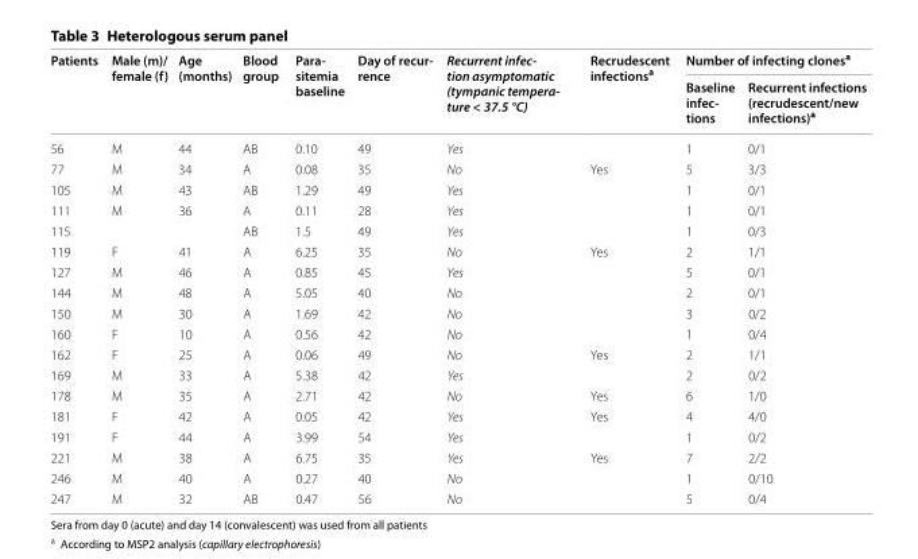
<table><thead><tr><td rowspan="2">Patients</td><td rowspan="2">Male (m)/ female (f)</td><td rowspan="2">Age (months)</td><td rowspan="2">Blood group</td><td rowspan="2">Para- sitemia baseline</td><td rowspan="2">Day of recur- rence</td><td rowspan="2">Recurrent infec- tion asymptomatic (tympanic tempera- ture &lt; 37.5 °C)</td><td rowspan="2">Recrudescent infections<sup>a</sup></td><td colspan="2">Number of infecting clones<sup>a</sup></td></tr><tr><td>Baseline infec- tions</td><td>Recurrent infections (recrudescent/new infections)<sup>a</sup></td></tr></thead><tbody><tr><td>56</td><td>M</td><td>44</td><td>AB</td><td>0.10</td><td>49</td><td>Yes</td><td></td><td>1</td><td>0/1</td></tr><tr><td>77</td><td>M</td><td>34</td><td>A</td><td>0.08</td><td>35</td><td>No</td><td>Yes</td><td>5</td><td>3/3</td></tr><tr><td>105</td><td>M</td><td>43</td><td>AB</td><td>1.29</td><td>49</td><td>Yes</td><td></td><td>1</td><td>0/1</td></tr><tr><td>111</td><td rowspan="2">M</td><td rowspan="2">36</td><td>A</td><td>0.11</td><td>28</td><td>Yes</td><td></td><td>1</td><td>0/1</td></tr><tr><td>115</td><td>AB</td><td>1.5</td><td>49</td><td>Yes</td><td></td><td>1</td><td>0/3</td></tr><tr><td>119</td><td>F</td><td>41</td><td>A</td><td>6.25</td><td>35</td><td>No</td><td>Yes</td><td>2</td><td>1/1</td></tr><tr><td>127</td><td>M</td><td>46</td><td>A</td><td>0.85</td><td>45</td><td>Yes</td><td></td><td>5</td><td>0/1</td></tr><tr><td>144</td><td>M</td><td>48</td><td>A</td><td>5.05</td><td>40</td><td>No</td><td></td><td>2</td><td>0/1</td></tr><tr><td>150</td><td>M</td><td>30</td><td>A</td><td>1.69</td><td>42</td><td>No</td><td></td><td>3</td><td>0/2</td></tr><tr><td>160</td><td>F</td><td>10</td><td>A</td><td>0.56</td><td>42</td><td>No</td><td></td><td>1</td><td>0/4</td></tr><tr><td>162</td><td>F</td><td>25</td><td>A</td><td>0.06</td><td>49</td><td>No</td><td>Yes</td><td>2</td><td>1/1</td></tr><tr><td>169</td><td>M</td><td>33</td><td>A</td><td>5.38</td><td>42</td><td>Yes</td><td></td><td>2</td><td>0/2</td></tr><tr><td>178</td><td>M</td><td>35</td><td>A</td><td>2.71</td><td>42</td><td>No</td><td>Yes</td><td>6</td><td>1/0</td></tr><tr><td>181</td><td>F</td><td>42</td><td>A</td><td>0.05</td><td>42</td><td>Yes</td><td>Yes</td><td>4</td><td>4/0</td></tr><tr><td>191</td><td>F</td><td>44</td><td>A</td><td>3.99</td><td>54</td><td>Yes</td><td></td><td>1</td><td>0/2</td></tr><tr><td>221</td><td>M</td><td>38</td><td>A</td><td>6.75</td><td>35</td><td>Yes</td><td>Yes</td><td>7</td><td>2/2</td></tr><tr><td>246</td><td>M</td><td>40</td><td>A</td><td>0.27</td><td>40</td><td>No</td><td></td><td>1</td><td>0/10</td></tr><tr><td>247</td><td>M</td><td>32</td><td>AB</td><td>0.47</td><td>56</td><td>No</td><td></td><td>5</td><td>0/4</td></tr></tbody></table>